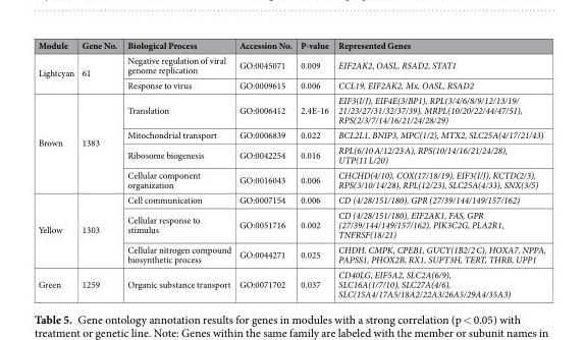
<table><thead><tr><td>Module</td><td>Gene No.</td><td>Biological Process</td><td>Accession No.</td><td>P-value</td><td>Represented Genes</td></tr></thead><tbody><tr><td rowspan="2">Lightcyan</td><td rowspan="2">61</td><td>Negative regulation of viral genome replication</td><td>GO:0045071</td><td>0.009</td><td>EIF2AK2, OASL, RSAD2, STAT1</td></tr><tr><td>Response to virus</td><td>GO:0009615</td><td>0.006</td><td>CCL19, EIF2AK2, Mx, OASL, RSAD2</td></tr><tr><td rowspan="4">Brown</td><td rowspan="4">1383</td><td>Translation</td><td>GO:0006412</td><td>2.4E-16</td><td>EIF3(I/J), EIF4E(3/BP1), RPL(3/4/6/8/9/12/13/19/ 21/23/27/31/32/37/39), MRPL(10/20/22/44/47/51), RPS(2/3/7/14/16/21/24/28/29)</td></tr><tr><td>Mitochondrial transport</td><td>GO:0006839</td><td>0.022</td><td>BCL2L1, BNIP3, MPC(1/2), MTX2, SLC25A(4/17/21/43)</td></tr><tr><td>Ribosome biogenesis</td><td>GO:0042254</td><td>0.016</td><td>RPL(6/10 A/12/23 A), RPS(10/14/16/21/24/28), UTP(11 L/20)</td></tr><tr><td>Cellular component organization</td><td>GO:0016043</td><td>0.006</td><td>CHCHD(4/10), COX(17/18/19), EIF3(I/J), KCTD(2/3), RPS(3/10/14/28), RPL(12/23), SLC25A(4/33), SNX(3/5)</td></tr><tr><td rowspan="3">Yellow</td><td rowspan="3">1303</td><td>Cell communication</td><td>GO:0007154</td><td>0.006</td><td>CD (4/28/151/180), GPR (27/39/144/149/157/162)</td></tr><tr><td>Cellular response to stimulus</td><td>GO:0051716</td><td>0.002</td><td>CD (4/28/151/180), EIF2AK1, FAS, GPR (27/39/144/149/157/162), PIK3C2G, PLA2R1, TNFRSF(18/21)</td></tr><tr><td>Cellular nitrogen compound biosynthetic process</td><td>GO:0044271</td><td>0.025</td><td>CHDH, CMPK, CPEB1, GUCY(1B2/2 C), HOXA7, NPPA, PAPSS1, PHOX2B, RX1, SUPT3H, TERT, THRB, UPP1</td></tr><tr><td>Green</td><td>1259</td><td>Organic substance transport</td><td>GO:0071702</td><td>0.037</td><td>CD40LG, EIF5A2, SLC2A(6/9), SLC16A(1/7/10), SLC27A(4/6), SLC(15A4/17A5/18A2/22A3/26A5/29A4/35A3)</td></tr></tbody></table>